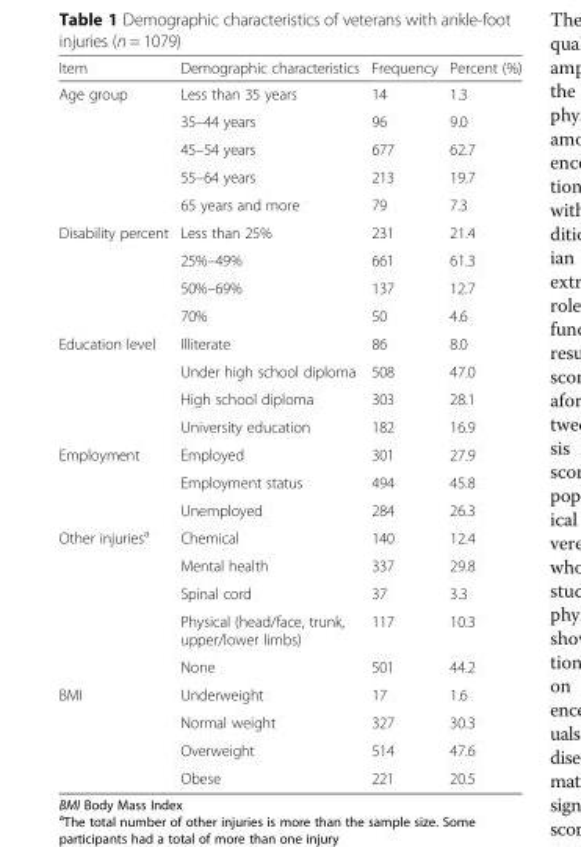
<table><thead><tr><td>Item</td><td>Demographic characteristics</td><td>Frequency</td><td>Percent (%)</td></tr></thead><tbody><tr><td rowspan="5">Age group</td><td>Less than 35 years</td><td>14</td><td>1.3</td></tr><tr><td>35–44 years</td><td>96</td><td>9.0</td></tr><tr><td>45–54 years</td><td>677</td><td>62.7</td></tr><tr><td>55–64 years</td><td>213</td><td>19.7</td></tr><tr><td>65 years and more</td><td>79</td><td>7.3</td></tr><tr><td rowspan="4">Disability percent</td><td>Less than 25%</td><td>231</td><td>21.4</td></tr><tr><td>25%–49%</td><td>661</td><td>61.3</td></tr><tr><td>50%–69%</td><td>137</td><td>12.7</td></tr><tr><td>70%</td><td>50</td><td>4.6</td></tr><tr><td rowspan="4">Education level</td><td>Illiterate</td><td>86</td><td>8.0</td></tr><tr><td>Under high school diploma</td><td>508</td><td>47.0</td></tr><tr><td>High school diploma</td><td>303</td><td>28.1</td></tr><tr><td>University education</td><td>182</td><td>16.9</td></tr><tr><td rowspan="3">Employment</td><td>Employed</td><td>301</td><td>27.9</td></tr><tr><td>Employment status</td><td>494</td><td>45.8</td></tr><tr><td>Unemployed</td><td>284</td><td>26.3</td></tr><tr><td rowspan="5">Other injuries<sup>a</sup></td><td>Chemical</td><td>140</td><td>12.4</td></tr><tr><td>Mental health</td><td>337</td><td>29.8</td></tr><tr><td>Spinal cord</td><td>37</td><td>3.3</td></tr><tr><td>Physical (head/face, trunk, upper/lower limbs)</td><td>117</td><td>10.3</td></tr><tr><td>None</td><td>501</td><td>44.2</td></tr><tr><td rowspan="4">BMI</td><td>Underweight</td><td>17</td><td>1.6</td></tr><tr><td>Normal weight</td><td>327</td><td>30.3</td></tr><tr><td>Overweight</td><td>514</td><td>47.6</td></tr><tr><td>Obese</td><td>221</td><td>20.5</td></tr></tbody></table>